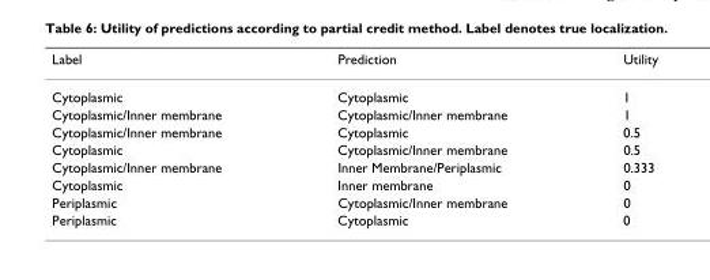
<table><thead><tr><td>Label</td><td>Prediction</td><td>Utility</td></tr></thead><tbody><tr><td>Cytoplasmic</td><td>Cytoplasmic</td><td>1</td></tr><tr><td>Cytoplasmic/Inner membrane</td><td>Cytoplasmic/Inner membrane</td><td>1</td></tr><tr><td>Cytoplasmic/Inner membrane</td><td>Cytoplasmic</td><td>0.5</td></tr><tr><td>Cytoplasmic</td><td>Cytoplasmic/Inner membrane</td><td>0.5</td></tr><tr><td>Cytoplasmic/Inner membrane</td><td>Inner Membrane/Periplasmic</td><td>0.333</td></tr><tr><td>Cytoplasmic</td><td>Inner membrane</td><td>0</td></tr><tr><td>Periplasmic</td><td>Cytoplasmic/Inner membrane</td><td>0</td></tr><tr><td>Periplasmic</td><td>Cytoplasmic</td><td>0</td></tr></tbody></table>